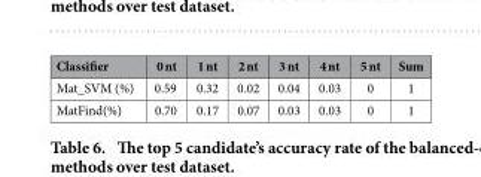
<table><thead><tr><td>Classifier</td><td>0 nt</td><td>1 nt</td><td>2 nt</td><td>3 nt</td><td>4 nt</td><td>5 nt</td><td>Sum</td></tr></thead><tbody><tr><td>Mat_SVM (%)</td><td>0.59</td><td>0.32</td><td>0.02</td><td>0.04</td><td>0.03</td><td>0</td><td>1</td></tr><tr><td>MatFind(%)</td><td>0.70</td><td>0.17</td><td>0.07</td><td>0.03</td><td>0.03</td><td>0</td><td>1</td></tr></tbody></table>